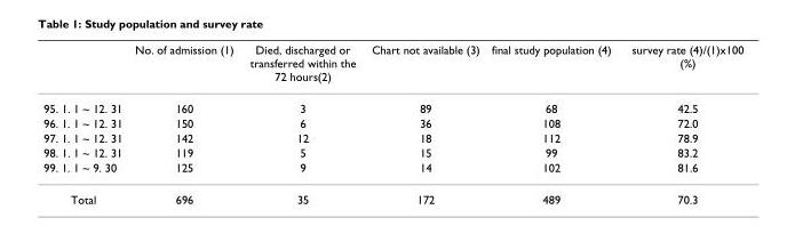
<table><thead><tr><td></td><td>No. of admission (1)</td><td>Died, discharged or transferred within the 72 hours(2)</td><td>Chart not available (3)</td><td>final study population (4)</td><td>survey rate (4)/(1)x100 (%)</td></tr></thead><tbody><tr><td>95. 1. 1 ~ 12. 31</td><td>160</td><td>3</td><td>89</td><td>68</td><td>42.5</td></tr><tr><td>96. 1. 1 ~ 12. 31</td><td>150</td><td>6</td><td>36</td><td>108</td><td>72.0</td></tr><tr><td>97. 1. 1 ~ 12. 31</td><td>142</td><td>12</td><td>18</td><td>112</td><td>78.9</td></tr><tr><td>98. 1. 1 ~ 12. 31</td><td>119</td><td>5</td><td>15</td><td>99</td><td>83.2</td></tr><tr><td>99. 1. 1 ~ 9. 30</td><td>125</td><td>9</td><td>14</td><td>102</td><td>81.6</td></tr><tr><td>Total</td><td>696</td><td>35</td><td>172</td><td>489</td><td>70.3</td></tr></tbody></table>